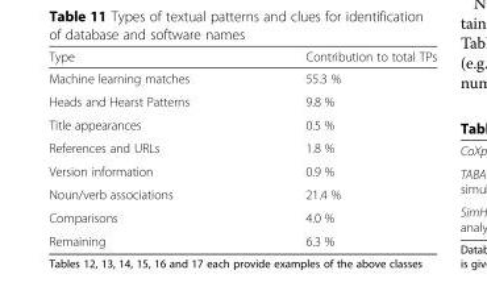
<table><thead><tr><td>Type</td><td>Contribution to total TPs</td></tr></thead><tbody><tr><td>Machine learning matches</td><td>55.3 %</td></tr><tr><td>Heads and Hearst Patterns</td><td>9.8 %</td></tr><tr><td>Title appearances</td><td>0.5 %</td></tr><tr><td>References and URLs</td><td>1.8 %</td></tr><tr><td>Version information</td><td>0.9 %</td></tr><tr><td>Noun/verb associations</td><td>21.4 %</td></tr><tr><td>Comparisons</td><td>4.0 %</td></tr><tr><td>Remaining</td><td>6.3 %</td></tr></tbody></table>